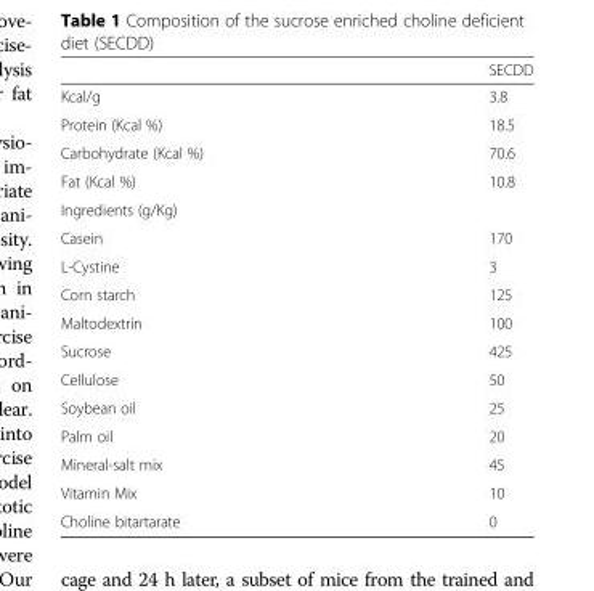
<table><thead><tr><td></td><td>SECDD</td></tr></thead><tbody><tr><td>Kcal/g</td><td>3.8</td></tr><tr><td>Protein (Kcal %)</td><td>18.5</td></tr><tr><td>Carbohydrate (Kcal %)</td><td>70.6</td></tr><tr><td>Fat (Kcal %)</td><td>10.8</td></tr><tr><td colspan="2">Ingredients (g/Kg)</td></tr><tr><td>Casein</td><td>170</td></tr><tr><td>L-Cystine</td><td>3</td></tr><tr><td>Corn starch</td><td>125</td></tr><tr><td>Maltodextrin</td><td>100</td></tr><tr><td>Sucrose</td><td>425</td></tr><tr><td>Cellulose</td><td>50</td></tr><tr><td>Soybean oil</td><td>25</td></tr><tr><td>Palm oil</td><td>20</td></tr><tr><td>Mineral-salt mix</td><td>45</td></tr><tr><td>Vitamin Mix</td><td>10</td></tr><tr><td>Choline bitartarate</td><td>0</td></tr></tbody></table>